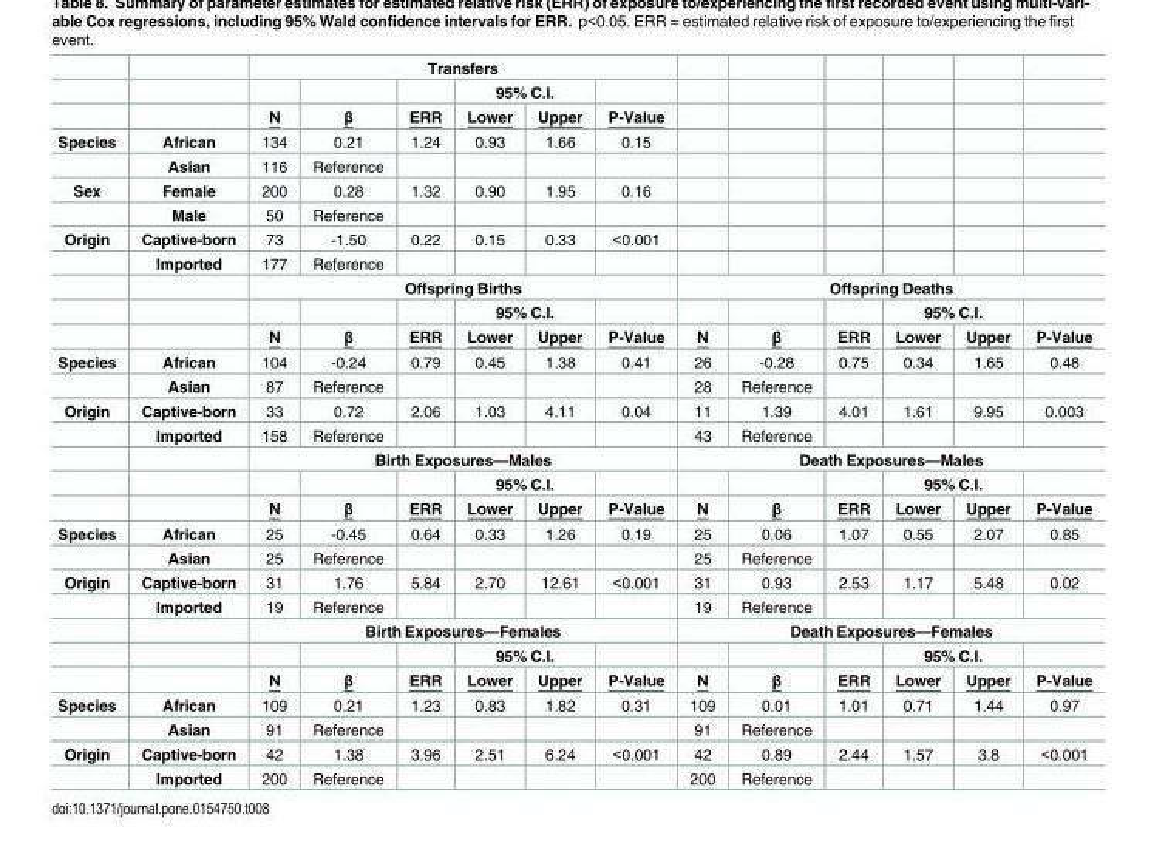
<table><thead><tr><td rowspan="3"></td><td rowspan="3"></td><td colspan="6">Transfers</td><td rowspan="3"></td><td rowspan="3"></td><td rowspan="3"></td><td rowspan="3"></td><td rowspan="3"></td><td rowspan="3"></td></tr><tr><td rowspan="2">N</td><td rowspan="2">β</td><td rowspan="2">ERR</td><td colspan="2">95% C.I.</td><td rowspan="2">P-Value</td></tr><tr><td>Lower</td><td>Upper</td></tr></thead><tbody><tr><td rowspan="2">Species</td><td>African</td><td>134</td><td>0.21</td><td>1.24</td><td>0.93</td><td>1.66</td><td>0.15</td><td></td><td></td><td></td><td></td><td></td><td></td></tr><tr><td>Asian</td><td>116</td><td>Reference</td><td></td><td></td><td></td><td></td><td></td><td></td><td></td><td></td><td></td><td></td></tr><tr><td rowspan="2">Sex</td><td>Female</td><td>200</td><td>0.28</td><td>1.32</td><td>0.90</td><td>1.95</td><td>0.16</td><td></td><td></td><td></td><td></td><td></td><td></td></tr><tr><td>Male</td><td>50</td><td>Reference</td><td></td><td></td><td></td><td></td><td></td><td></td><td></td><td></td><td></td><td></td></tr><tr><td rowspan="5">Origin</td><td>Captive-born</td><td>73</td><td>-1.50</td><td>0.22</td><td>0.15</td><td>0.33</td><td>&lt;0.001</td><td></td><td></td><td></td><td></td><td></td><td></td></tr><tr><td>Imported</td><td>177</td><td>Reference</td><td></td><td></td><td></td><td></td><td></td><td></td><td></td><td></td><td></td><td></td></tr><tr><td></td><td colspan="6">Offspring Births</td><td colspan="6">Offspring Deaths</td></tr><tr><td></td><td></td><td></td><td></td><td colspan="2">95% C.I.</td><td></td><td></td><td></td><td></td><td colspan="2">95% C.I.</td><td></td></tr><tr><td></td><td>N</td><td>β</td><td>ERR</td><td>Lower</td><td>Upper</td><td>P-Value</td><td>N</td><td>β</td><td>ERR</td><td>Lower</td><td>Upper</td><td>P-Value</td></tr><tr><td rowspan="2">Species</td><td>African</td><td>104</td><td>-0.24</td><td>0.79</td><td>0.45</td><td>1.38</td><td>0.41</td><td>26</td><td>-0.28</td><td>0.75</td><td>0.34</td><td>1.65</td><td>0.48</td></tr><tr><td>Asian</td><td>87</td><td>Reference</td><td></td><td></td><td></td><td></td><td>28</td><td>Reference</td><td></td><td></td><td></td><td></td></tr><tr><td rowspan="5">Origin</td><td>Captive-born</td><td>33</td><td>0.72</td><td>2.06</td><td>1.03</td><td>4.11</td><td>0.04</td><td>11</td><td>1.39</td><td>4.01</td><td>1.61</td><td>9.95</td><td>0.003</td></tr><tr><td>Imported</td><td>158</td><td>Reference</td><td></td><td></td><td></td><td></td><td>43</td><td>Reference</td><td></td><td></td><td></td><td></td></tr><tr><td></td><td colspan="6">Birth Exposures—Males</td><td colspan="6">Death Exposures—Males</td></tr><tr><td></td><td></td><td></td><td></td><td colspan="2">95% C.I.</td><td></td><td></td><td></td><td></td><td colspan="2">95% C.I.</td><td></td></tr><tr><td></td><td>N</td><td>β</td><td>ERR</td><td>Lower</td><td>Upper</td><td>P-Value</td><td>N</td><td>β</td><td>ERR</td><td>Lower</td><td>Upper</td><td>P-Value</td></tr><tr><td rowspan="2">Species</td><td>African</td><td>25</td><td>-0.45</td><td>0.64</td><td>0.33</td><td>1.26</td><td>0.19</td><td>25</td><td>0.06</td><td>1.07</td><td>0.55</td><td>2.07</td><td>0.85</td></tr><tr><td>Asian</td><td>25</td><td>Reference</td><td></td><td></td><td></td><td></td><td>25</td><td>Reference</td><td></td><td></td><td></td><td></td></tr><tr><td rowspan="5">Origin</td><td>Captive-born</td><td>31</td><td>1.76</td><td>5.84</td><td>2.70</td><td>12.61</td><td>&lt;0.001</td><td>31</td><td>0.93</td><td>2.53</td><td>1.17</td><td>5.48</td><td>0.02</td></tr><tr><td>Imported</td><td>19</td><td>Reference</td><td></td><td></td><td></td><td></td><td>19</td><td>Reference</td><td></td><td></td><td></td><td></td></tr><tr><td></td><td colspan="6">Birth Exposures—Females</td><td colspan="6">Death Exposures—Females</td></tr><tr><td></td><td></td><td></td><td></td><td colspan="2">95% C.I.</td><td></td><td></td><td></td><td></td><td colspan="2">95% C.I.</td><td></td></tr><tr><td></td><td>N</td><td>β</td><td>ERR</td><td>Lower</td><td>Upper</td><td>P-Value</td><td>N</td><td>β</td><td>ERR</td><td>Lower</td><td>Upper</td><td>P-Value</td></tr><tr><td rowspan="2">Species</td><td>African</td><td>109</td><td>0.21</td><td>1.23</td><td>0.83</td><td>1.82</td><td>0.31</td><td>109</td><td>0.01</td><td>1.01</td><td>0.71</td><td>1.44</td><td>0.97</td></tr><tr><td>Asian</td><td>91</td><td>Reference</td><td></td><td></td><td></td><td></td><td>91</td><td>Reference</td><td></td><td></td><td></td><td></td></tr><tr><td rowspan="2">Origin</td><td>Captive-born</td><td>42</td><td>1.38</td><td>3.96</td><td>2.51</td><td>6.24</td><td>&lt;0.001</td><td>42</td><td>0.89</td><td>2.44</td><td>1.57</td><td>3.8</td><td>&lt;0.001</td></tr><tr><td>Imported</td><td>200</td><td>Reference</td><td></td><td></td><td></td><td></td><td>200</td><td>Reference</td><td></td><td></td><td></td><td></td></tr></tbody></table>